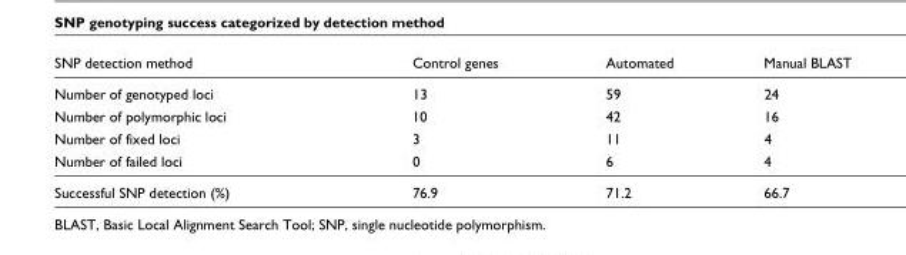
<table><thead><tr><td>SNP detection method</td><td>Control genes</td><td>Automated</td><td>Manual BLAST</td></tr></thead><tbody><tr><td>Number of genotyped loci</td><td>13</td><td>59</td><td>24</td></tr><tr><td>Number of polymorphic loci</td><td>10</td><td>42</td><td>16</td></tr><tr><td>Number of fixed loci</td><td>3</td><td>11</td><td>4</td></tr><tr><td>Number of failed loci</td><td>0</td><td>6</td><td>4</td></tr><tr><td>Successful SNP detection (%)</td><td>76.9</td><td>71.2</td><td>66.7</td></tr></tbody></table>